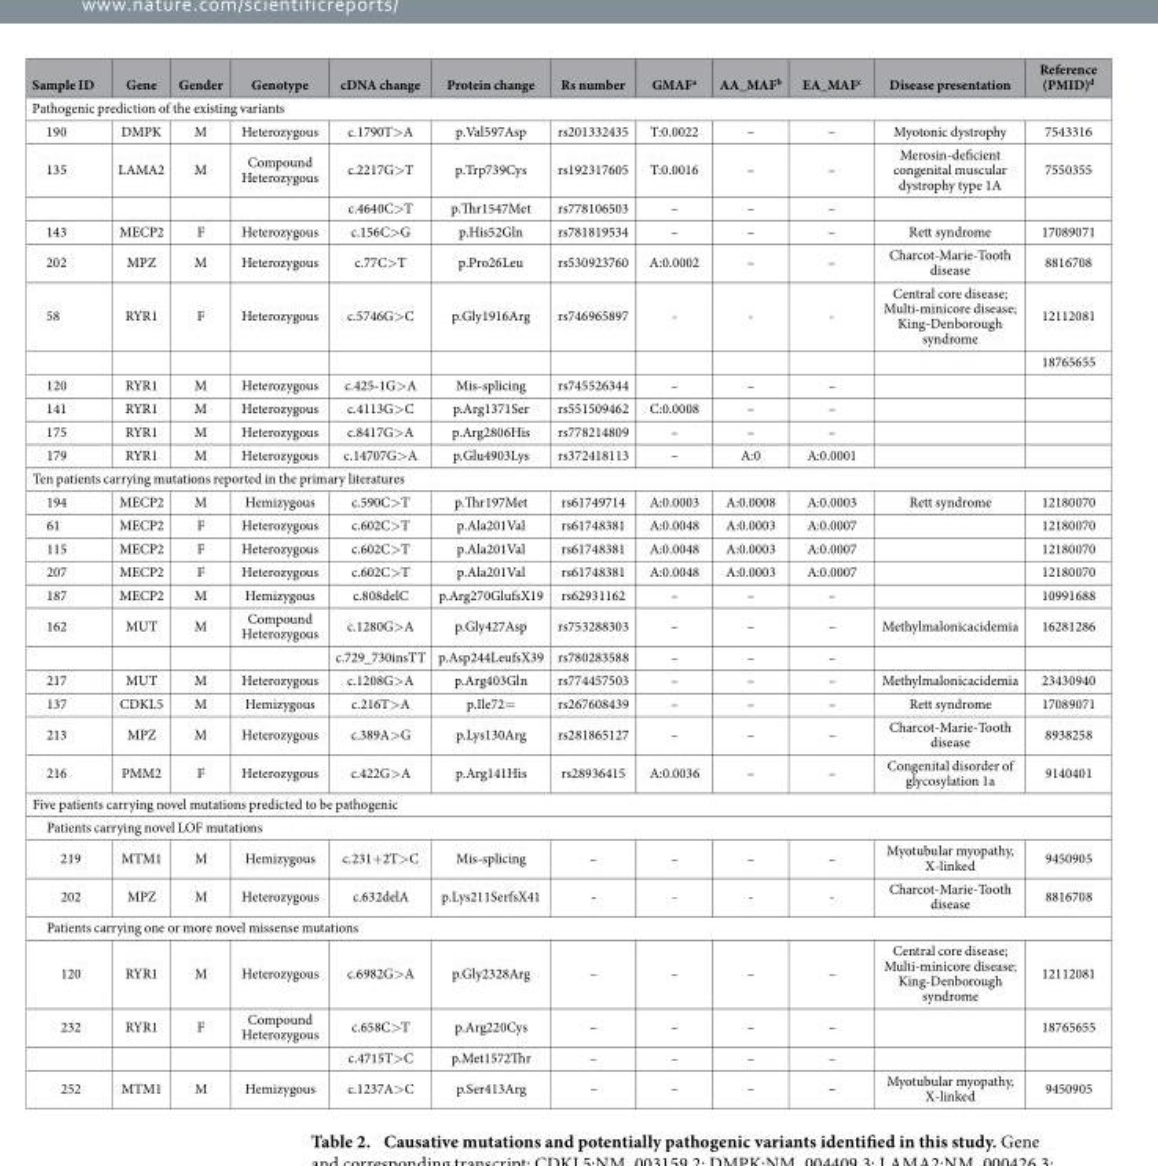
<table><thead><tr><td>Sample ID</td><td>Gene</td><td>Gender</td><td>Genotype</td><td>cDNA change</td><td>Protein change</td><td>Rs number</td><td>GMAF<sup>a</sup></td><td>AA_MAF<sup>b</sup></td><td>EA_MAF<sup>c</sup></td><td>Disease presentation</td><td>Reference (PMID)<sup>d</sup></td></tr></thead><tbody><tr><td colspan="12">Pathogenic prediction of the existing variants</td></tr><tr><td>190</td><td>DMPK</td><td>M</td><td>Heterozygous</td><td>c.1790T&gt; A</td><td>p.Val597Asp</td><td>rs201332435</td><td>T:0.0022</td><td>–</td><td>–</td><td>Myotonic dystrophy</td><td>7543316</td></tr><tr><td rowspan="2">135</td><td>LAMA2</td><td>M</td><td>Compound Heterozygous</td><td>c.2217G&gt; T</td><td>p.Trp739Cys</td><td>rs192317605</td><td>T:0.0016</td><td>–</td><td>–</td><td>Merosin-deficient congenital muscular dystrophy type 1A</td><td>7550355</td></tr><tr><td></td><td></td><td></td><td>c.4640C&gt; T</td><td>p.Thr1547Met</td><td>rs778106503</td><td>–</td><td>–</td><td>–</td><td></td><td></td></tr><tr><td>143</td><td>MECP2</td><td>F</td><td>Heterozygous</td><td>c.156C&gt; G</td><td>p.His52Gln</td><td>rs781819534</td><td>–</td><td>–</td><td>–</td><td>Rett syndrome</td><td>17089071</td></tr><tr><td>202</td><td>MPZ</td><td>M</td><td>Heterozygous</td><td>c.77C&gt; T</td><td>p.Pro26Leu</td><td>rs530923760</td><td>A:0.0002</td><td>–</td><td>–</td><td>Charcot-Marie-Tooth disease</td><td>8816708</td></tr><tr><td rowspan="2">58</td><td>RYR1</td><td>F</td><td>Heterozygous</td><td>c.5746G&gt; C</td><td>p.Gly1916Arg</td><td>rs746965897</td><td>-</td><td>-</td><td>-</td><td>Central core disease; Multi-minicore disease; King-Denborough syndrome</td><td>12112081</td></tr><tr><td></td><td></td><td></td><td></td><td></td><td></td><td></td><td></td><td></td><td></td><td>18765655</td></tr><tr><td>120</td><td>RYR1</td><td>M</td><td>Heterozygous</td><td>c.425-1G&gt; A</td><td>Mis-splicing</td><td>rs745526344</td><td>–</td><td>–</td><td>–</td><td></td><td></td></tr><tr><td>141</td><td>RYR1</td><td>M</td><td>Heterozygous</td><td>c.4113G&gt; C</td><td>p.Arg1371Ser</td><td>rs551509462</td><td>C:0.0008</td><td>–</td><td>–</td><td></td><td></td></tr><tr><td>175</td><td>RYR1</td><td>M</td><td>Heterozygous</td><td>c.8417G&gt; A</td><td>p.Arg2806His</td><td>rs778214809</td><td>–</td><td>–</td><td>–</td><td></td><td></td></tr><tr><td>179</td><td>RYR1</td><td>M</td><td>Heterozygous</td><td>c.14707G&gt; A</td><td>p.Glu4903Lys</td><td>rs372418113</td><td>–</td><td>A:0</td><td>A:0.0001</td><td></td><td></td></tr><tr><td colspan="12">Ten patients carrying mutations reported in the primary literatures</td></tr><tr><td>194</td><td>MECP2</td><td>M</td><td>Hemizygous</td><td>c.590C&gt; T</td><td>p.Thr197Met</td><td>rs61749714</td><td>A:0.0003</td><td>A:0.0008</td><td>A:0.0003</td><td>Rett syndrome</td><td>12180070</td></tr><tr><td>61</td><td>MECP2</td><td>F</td><td>Heterozygous</td><td>c.602C&gt; T</td><td>p.Ala201Val</td><td>rs61748381</td><td>A:0.0048</td><td>A:0.0003</td><td>A:0.0007</td><td></td><td>12180070</td></tr><tr><td>115</td><td>MECP2</td><td>F</td><td>Heterozygous</td><td>c.602C&gt; T</td><td>p.Ala201Val</td><td>rs61748381</td><td>A:0.0048</td><td>A:0.0003</td><td>A:0.0007</td><td></td><td>12180070</td></tr><tr><td>207</td><td>MECP2</td><td>F</td><td>Heterozygous</td><td>c.602C&gt; T</td><td>p.Ala201Val</td><td>rs61748381</td><td>A:0.0048</td><td>A:0.0003</td><td>A:0.0007</td><td></td><td>12180070</td></tr><tr><td>187</td><td>MECP2</td><td>M</td><td>Hemizygous</td><td>c.808delC</td><td>p.Arg270GlufsX19</td><td>rs62931162</td><td>–</td><td>–</td><td>–</td><td></td><td>10991688</td></tr><tr><td rowspan="2">162</td><td>MUT</td><td>M</td><td>Compound Heterozygous</td><td>c.1280G&gt; A</td><td>p.Gly427Asp</td><td>rs753288303</td><td>–</td><td>–</td><td>–</td><td>Methylmalonicacidemia</td><td>16281286</td></tr><tr><td></td><td></td><td></td><td>c.729_730insTT</td><td>p.Asp244LeufsX39</td><td>rs780283588</td><td>–</td><td>–</td><td>–</td><td></td><td></td></tr><tr><td>217</td><td>MUT</td><td>M</td><td>Heterozygous</td><td>c.1208G&gt; A</td><td>p.Arg403Gln</td><td>rs774457503</td><td>–</td><td>–</td><td>–</td><td>Methylmalonicacidemia</td><td>23430940</td></tr><tr><td>137</td><td>CDKL5</td><td>M</td><td>Hemizygous</td><td>c.216T&gt; A</td><td>p.Ile72=</td><td>rs267608439</td><td>–</td><td>–</td><td>–</td><td>Rett syndrome</td><td>17089071</td></tr><tr><td>213</td><td>MPZ</td><td>M</td><td>Heterozygous</td><td>c.389A&gt; G</td><td>p.Lys130Arg</td><td>rs281865127</td><td>–</td><td>–</td><td>–</td><td>Charcot-Marie-Tooth disease</td><td>8938258</td></tr><tr><td>216</td><td>PMM2</td><td>F</td><td>Heterozygous</td><td>c.422G&gt; A</td><td>p.Arg141His</td><td>rs28936415</td><td>A:0.0036</td><td>–</td><td>–</td><td>Congenital disorder of glycosylation 1a</td><td>9140401</td></tr><tr><td colspan="12">Five patients carrying novel mutations predicted to be pathogenic</td></tr><tr><td colspan="12">Patients carrying novel LOF mutations</td></tr><tr><td>219</td><td>MTM1</td><td>M</td><td>Hemizygous</td><td>c.231+ 2T&gt; C</td><td>Mis-splicing</td><td>–</td><td>–</td><td>–</td><td>–</td><td>Myotubular myopathy, X-linked</td><td>9450905</td></tr><tr><td>202</td><td>MPZ</td><td>M</td><td>Heterozygous</td><td>c.632delA</td><td>p.Lys211SerfsX41</td><td>-</td><td>-</td><td>-</td><td>-</td><td>Charcot-Marie-Tooth disease</td><td>8816708</td></tr><tr><td colspan="12">Patients carrying one or more novel missense mutations</td></tr><tr><td>120</td><td>RYR1</td><td>M</td><td>Heterozygous</td><td>c.6982G&gt; A</td><td>p.Gly2328Arg</td><td>–</td><td>–</td><td>–</td><td>–</td><td>Central core disease; Multi-minicore disease; King-Denborough syndrome</td><td>12112081</td></tr><tr><td rowspan="2">232</td><td>RYR1</td><td>F</td><td>Compound Heterozygous</td><td>c.658C&gt; T</td><td>p.Arg220Cys</td><td>–</td><td>–</td><td>–</td><td>–</td><td></td><td>18765655</td></tr><tr><td></td><td></td><td></td><td>c.4715T&gt; C</td><td>p.Met1572Thr</td><td>–</td><td>–</td><td>–</td><td>–</td><td></td><td></td></tr><tr><td>252</td><td>MTM1</td><td>M</td><td>Hemizygous</td><td>c.1237A&gt; C</td><td>p.Ser413Arg</td><td>–</td><td>–</td><td>–</td><td>–</td><td>Myotubular myopathy, X-linked</td><td>9450905</td></tr></tbody></table>